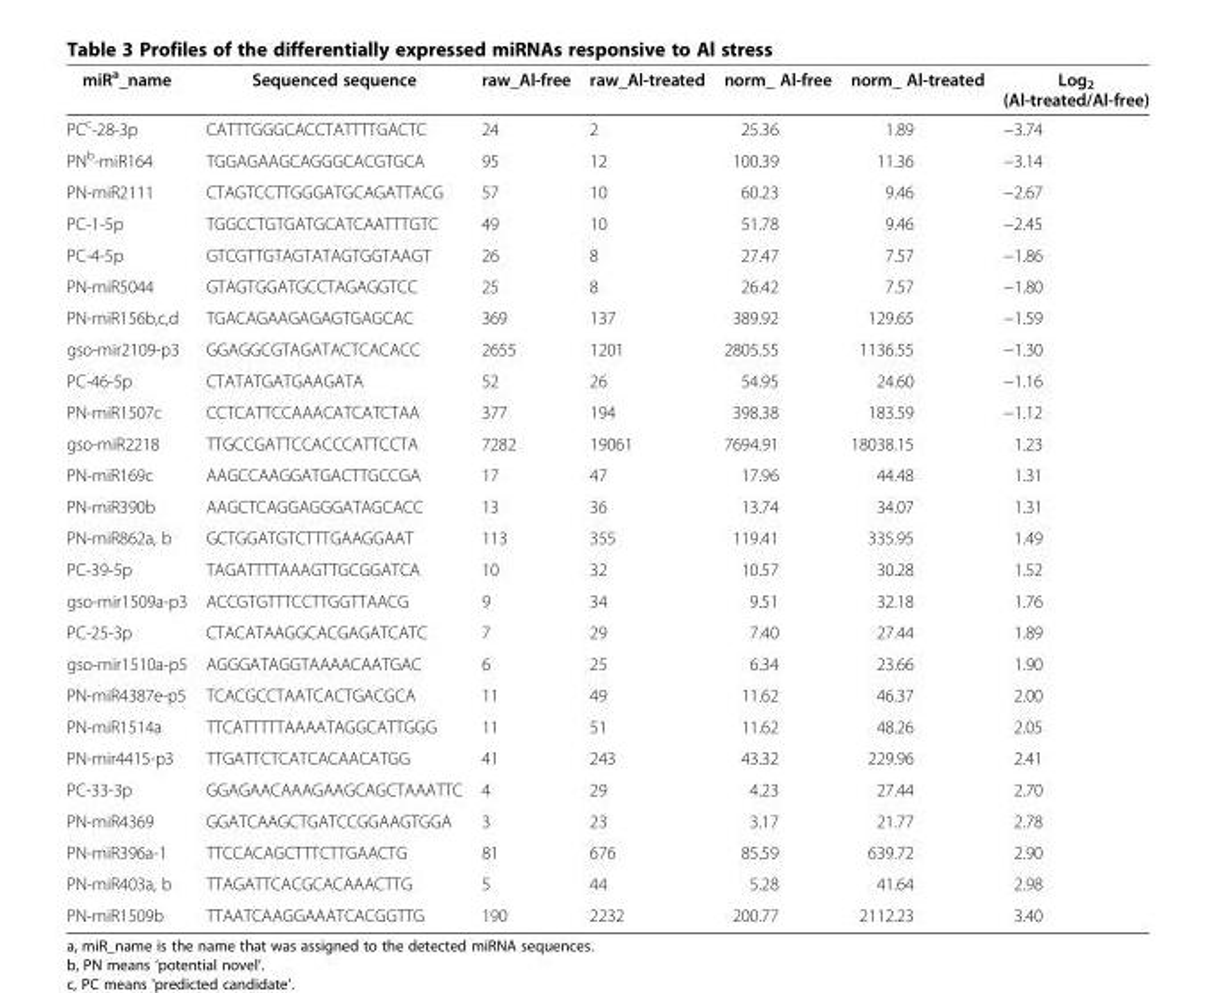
<table><thead><tr><td>miR<sup>a</sup>_name</td><td>Sequenced sequence</td><td>raw_Al-free</td><td>raw_Al-treated</td><td>norm_ Al-free</td><td>norm_ Al-treated</td><td>Log<sub>2</sub> (Al-treated/Al-free)</td></tr></thead><tbody><tr><td>PC<sup>c</sup>-28-3p</td><td>CATTTGGGCACCTATTTTGACTC</td><td>24</td><td>2</td><td>25.36</td><td>1.89</td><td>−3.74</td></tr><tr><td>PN<sup>b</sup>-miR164</td><td>TGGAGAAGCAGGGCACGTGCA</td><td>95</td><td>12</td><td>100.39</td><td>11.36</td><td>−3.14</td></tr><tr><td>PN-miR2111</td><td>CTAGTCCTTGGGATGCAGATTACG</td><td>57</td><td>10</td><td>60.23</td><td>9.46</td><td>−2.67</td></tr><tr><td>PC-1-5p</td><td>TGGCCTGTGATGCATCAATTTGTC</td><td>49</td><td>10</td><td>51.78</td><td>9.46</td><td>−2.45</td></tr><tr><td>PC-4-5p</td><td>GTCGTTGTAGTATAGTGGTAAGT</td><td>26</td><td>8</td><td>27.47</td><td>7.57</td><td>−1.86</td></tr><tr><td>PN-miR5044</td><td>GTAGTGGATGCCTAGAGGTCC</td><td>25</td><td>8</td><td>26.42</td><td>7.57</td><td>−1.80</td></tr><tr><td>PN-miR156b,c,d</td><td>TGACAGAAGAGAGTGAGCAC</td><td>369</td><td>137</td><td>389.92</td><td>129.65</td><td>−1.59</td></tr><tr><td>gso-mir2109-p3</td><td>GGAGGCGTAGATACTCACACC</td><td>2655</td><td>1201</td><td>2805.55</td><td>1136.55</td><td>−1.30</td></tr><tr><td>PC-46-5p</td><td>CTATATGATGAAGATA</td><td>52</td><td>26</td><td>54.95</td><td>24.60</td><td>−1.16</td></tr><tr><td>PN-miR1507c</td><td>CCTCATTCCAAACATCATCTAA</td><td>377</td><td>194</td><td>398.38</td><td>183.59</td><td>−1.12</td></tr><tr><td>gso-miR2218</td><td>TTGCCGATTCCACCCATTCCTA</td><td>7282</td><td>19061</td><td>7694.91</td><td>18038.15</td><td>1.23</td></tr><tr><td>PN-miR169c</td><td>AAGCCAAGGATGACTTGCCGA</td><td>17</td><td>47</td><td>17.96</td><td>44.48</td><td>1.31</td></tr><tr><td>PN-miR390b</td><td>AAGCTCAGGAGGGATAGCACC</td><td>13</td><td>36</td><td>13.74</td><td>34.07</td><td>1.31</td></tr><tr><td>PN-miR862a, b</td><td>GCTGGATGTCTTTGAAGGAAT</td><td>113</td><td>355</td><td>119.41</td><td>335.95</td><td>1.49</td></tr><tr><td>PC-39-5p</td><td>TAGATTTTAAAGTTGCGGATCA</td><td>10</td><td>32</td><td>10.57</td><td>30.28</td><td>1.52</td></tr><tr><td>gso-mir1509a-p3</td><td>ACCGTGTTTCCTTGGTTAACG</td><td>9</td><td>34</td><td>9.51</td><td>32.18</td><td>1.76</td></tr><tr><td>PC-25-3p</td><td>CTACATAAGGCACGAGATCATC</td><td>7</td><td>29</td><td>7.40</td><td>27.44</td><td>1.89</td></tr><tr><td>gso-mir1510a-p5</td><td>AGGGATAGGTAAAACAATGAC</td><td>6</td><td>25</td><td>6.34</td><td>23.66</td><td>1.90</td></tr><tr><td>PN-miR4387e-p5</td><td>TCACGCCTAATCACTGACGCA</td><td>11</td><td>49</td><td>11.62</td><td>46.37</td><td>2.00</td></tr><tr><td>PN-miR1514a</td><td>TTCATTTTTAAAATAGGCATTGGG</td><td>11</td><td>51</td><td>11.62</td><td>48.26</td><td>2.05</td></tr><tr><td>PN-mir4415-p3</td><td>TTGATTCTCATCACAACATGG</td><td>41</td><td>243</td><td>43.32</td><td>229.96</td><td>2.41</td></tr><tr><td>PC-33-3p</td><td>GGAGAACAAAGAAGCAGCTAAATTC</td><td>4</td><td>29</td><td>4.23</td><td>27.44</td><td>2.70</td></tr><tr><td>PN-miR4369</td><td>GGATCAAGCTGATCCGGAAGTGGA</td><td>3</td><td>23</td><td>3.17</td><td>21.77</td><td>2.78</td></tr><tr><td>PN-miR396a-1</td><td>TTCCACAGCTTTCTTGAACTG</td><td>81</td><td>676</td><td>85.59</td><td>639.72</td><td>2.90</td></tr><tr><td>PN-miR403a, b</td><td>TTAGATTCACGCACAAACTTG</td><td>5</td><td>44</td><td>5.28</td><td>41.64</td><td>2.98</td></tr><tr><td>PN-miR1509b</td><td>TTAATCAAGGAAATCACGGTTG</td><td>190</td><td>2232</td><td>200.77</td><td>2112.23</td><td>3.40</td></tr></tbody></table>